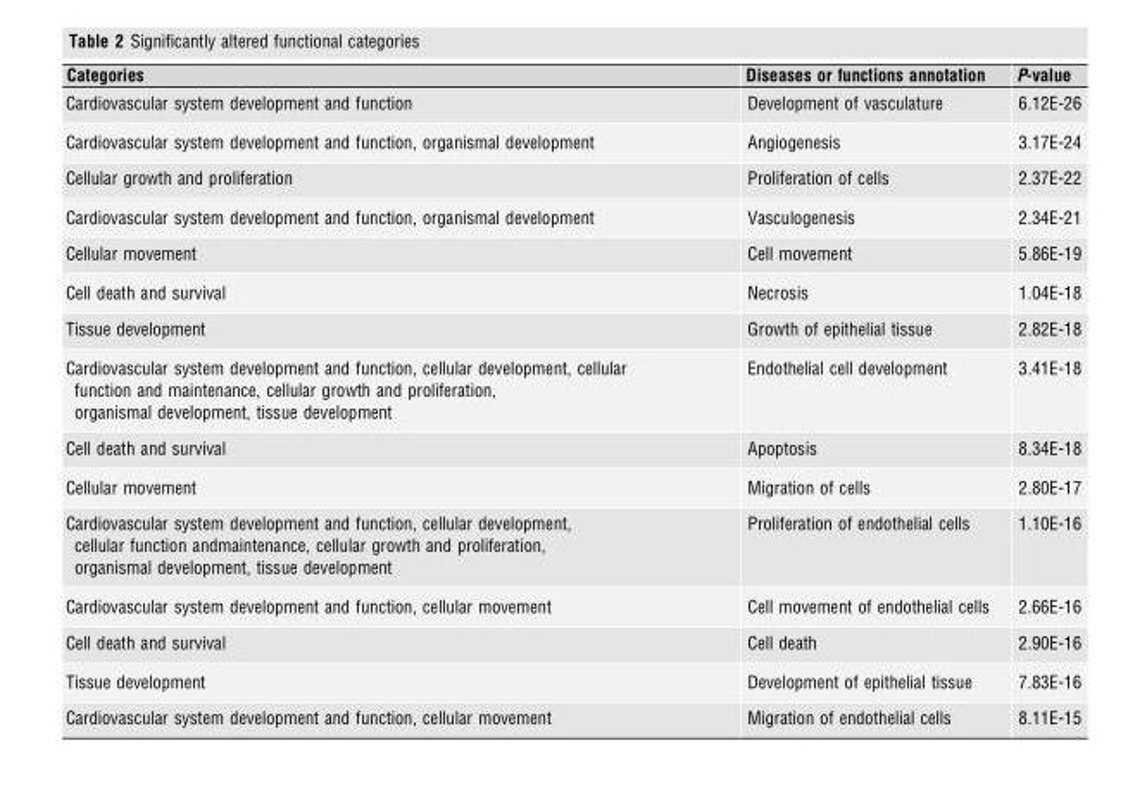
<table><thead><tr><td>Categories</td><td>Diseases or functions annotation</td><td>P-value</td></tr></thead><tbody><tr><td>Cardiovascular system development and function</td><td>Development of vasculature</td><td>6.12E-26</td></tr><tr><td>Cardiovascular system development and function, organismal development</td><td>Angiogenesis</td><td>3.17E-24</td></tr><tr><td>Cellular growth and proliferation</td><td>Proliferation of cells</td><td>2.37E-22</td></tr><tr><td>Cardiovascular system development and function, organismal development</td><td>Vasculogenesis</td><td>2.34E-21</td></tr><tr><td>Cellular movement</td><td>Cell movement</td><td>5.86E-19</td></tr><tr><td>Cell death and survival</td><td>Necrosis</td><td>1.04E-18</td></tr><tr><td>Tissue development</td><td>Growth of epithelial tissue</td><td>2.82E-18</td></tr><tr><td>Cardiovascular system development and function, cellular development, cellular function and maintenance, cellular growth and proliferation, organismal development, tissue development</td><td>Endothelial cell development</td><td>3.41E-18</td></tr><tr><td>Cell death and survival</td><td>Apoptosis</td><td>8.34E-18</td></tr><tr><td>Cellular movement</td><td>Migration of cells</td><td>2.80E-17</td></tr><tr><td>Cardiovascular system development and function, cellular development, cellular function andmaintenance, cellular growth and proliferation, organismal development, tissue development</td><td>Proliferation of endothelial cells</td><td>1.10E-16</td></tr><tr><td>Cardiovascular system development and function, cellular movement</td><td>Cell movement of endothelial cells</td><td>2.66E-16</td></tr><tr><td>Cell death and survival</td><td>Cell death</td><td>2.90E-16</td></tr><tr><td>Tissue development</td><td>Development of epithelial tissue</td><td>7.83E-16</td></tr><tr><td>Cardiovascular system development and function, cellular movement</td><td>Migration of endothelial cells</td><td>8.11E-15</td></tr></tbody></table>